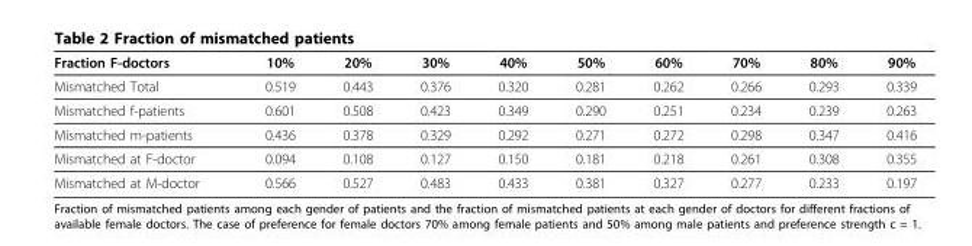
<table><thead><tr><td>Fraction F-doctors</td><td>10%</td><td>20%</td><td>30%</td><td>40%</td><td>50%</td><td>60%</td><td>70%</td><td>80%</td><td>90%</td></tr></thead><tbody><tr><td>Mismatched Total</td><td>0.519</td><td>0.443</td><td>0.376</td><td>0.320</td><td>0.281</td><td>0.262</td><td>0.266</td><td>0.293</td><td>0.339</td></tr><tr><td>Mismatched f-patients</td><td>0.601</td><td>0.508</td><td>0.423</td><td>0.349</td><td>0.290</td><td>0.251</td><td>0.234</td><td>0.239</td><td>0.263</td></tr><tr><td>Mismatched m-patients</td><td>0.436</td><td>0.378</td><td>0.329</td><td>0.292</td><td>0.271</td><td>0.272</td><td>0.298</td><td>0.347</td><td>0.416</td></tr><tr><td>Mismatched at F-doctor</td><td>0.094</td><td>0.108</td><td>0.127</td><td>0.150</td><td>0.181</td><td>0.218</td><td>0.261</td><td>0.308</td><td>0.355</td></tr><tr><td>Mismatched at M-doctor</td><td>0.566</td><td>0.527</td><td>0.483</td><td>0.433</td><td>0.381</td><td>0.327</td><td>0.277</td><td>0.233</td><td>0.197</td></tr></tbody></table>